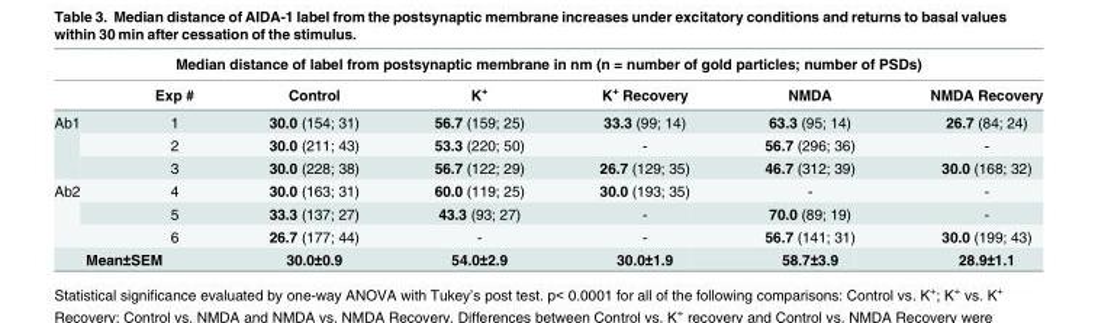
<table><thead><tr><td colspan="7">Median distance of label from postsynaptic membrane in nm (n = number of gold particles; number of PSDs)</td></tr><tr><td></td><td>Exp #</td><td>Control</td><td>K<sup>+</sup></td><td>K<sup>+</sup> Recovery</td><td>NMDA</td><td>NMDA Recovery</td></tr></thead><tbody><tr><td rowspan="3">Ab1</td><td>1</td><td>30.0 (154; 31)</td><td>56.7 (159; 25)</td><td>33.3 (99; 14)</td><td>63.3 (95; 14)</td><td>26.7 (84; 24)</td></tr><tr><td>2</td><td>30.0 (211; 43)</td><td>53.3 (220; 50)</td><td>-</td><td>56.7 (296; 36)</td><td>-</td></tr><tr><td>3</td><td>30.0 (228; 38)</td><td>56.7 (122; 29)</td><td>26.7 (129; 35)</td><td>46.7 (312; 39)</td><td>30.0 (168; 32)</td></tr><tr><td rowspan="3">Ab2</td><td>4</td><td>30.0 (163; 31)</td><td>60.0 (119; 25)</td><td>30.0 (193; 35)</td><td>-</td><td>-</td></tr><tr><td>5</td><td>33.3 (137; 27)</td><td>43.3 (93; 27)</td><td>-</td><td>70.0 (89; 19)</td><td>-</td></tr><tr><td>6</td><td>26.7 (177; 44)</td><td>-</td><td>-</td><td>56.7 (141; 31)</td><td>30.0 (199; 43)</td></tr><tr><td colspan="2">Mean±SEM</td><td>30.0±0.9</td><td>54.0±2.9</td><td>30.0±1.9</td><td>58.7±3.9</td><td>28.9±1.1</td></tr></tbody></table>